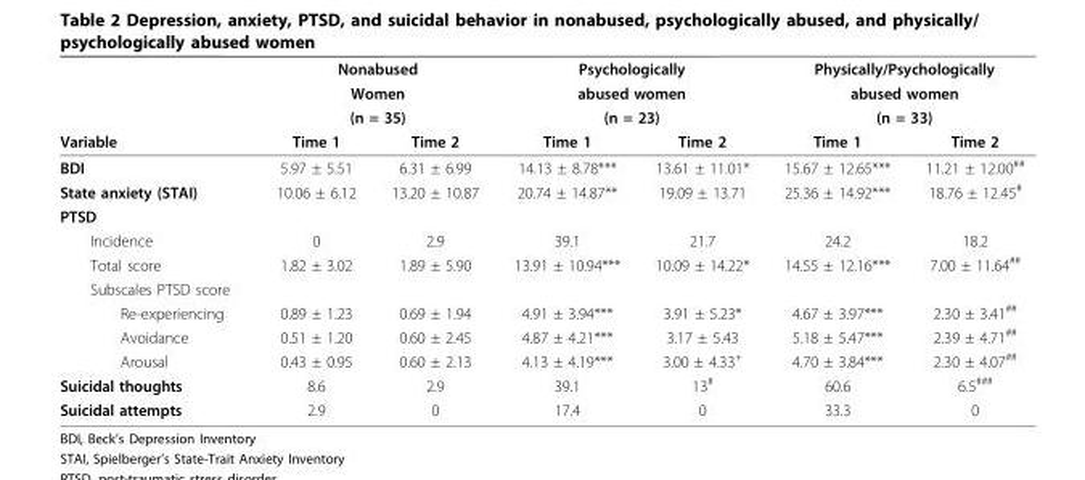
<table><thead><tr><td rowspan="4">Variable</td><td rowspan="3" colspan="2">Nonabused Women (n = 35)</td><td rowspan="3" colspan="2">Psychologically abused women (n = 23)</td><td rowspan="3" colspan="2">Physically/Psychologically abused women (n = 33)</td></tr><tr></tr><tr></tr><tr><td>Time 1</td><td>Time 2</td><td>Time 1</td><td>Time 2</td><td>Time 1</td><td>Time 2</td></tr></thead><tbody><tr><td>BDI</td><td>5.97 ± 5.51</td><td>6.31 ± 6.99</td><td>14.13 ± 8.78***</td><td>13.61 ± 11.01*</td><td>15.67 ± 12.65***</td><td>11.21 ± 12.00<sup>##</sup></td></tr><tr><td>State anxiety (STAI)</td><td>10.06 ± 6.12</td><td>13.20 ± 10.87</td><td>20.74 ± 14.87**</td><td>19.09 ± 13.71</td><td>25.36 ± 14.92***</td><td>18.76 ± 12.45<sup>#</sup></td></tr><tr><td colspan="7">PTSD</td></tr><tr><td>Incidence</td><td>0</td><td>2.9</td><td>39.1</td><td>21.7</td><td>24.2</td><td>18.2</td></tr><tr><td>Total score</td><td>1.82 ± 3.02</td><td>1.89 ± 5.90</td><td>13.91 ± 10.94***</td><td>10.09 ± 14.22*</td><td>14.55 ± 12.16***</td><td>7.00 ± 11.64<sup>##</sup></td></tr><tr><td colspan="7">Subscales PTSD score</td></tr><tr><td>Re-experiencing</td><td>0.89 ± 1.23</td><td>0.69 ± 1.94</td><td>4.91 ± 3.94***</td><td>3.91 ± 5.23*</td><td>4.67 ± 3.97***</td><td>2.30 ± 3.41<sup>##</sup></td></tr><tr><td>Avoidance</td><td>0.51 ± 1.20</td><td>0.60 ± 2.45</td><td>4.87 ± 4.21***</td><td>3.17 ± 5.43</td><td>5.18 ± 5.47***</td><td>2.39 ± 4.71<sup>##</sup></td></tr><tr><td>Arousal</td><td>0.43 ± 0.95</td><td>0.60 ± 2.13</td><td>4.13 ± 4.19***</td><td>3.00 ± 4.33<sup>+</sup></td><td>4.70 ± 3.84***</td><td>2.30 ± 4.07<sup>##</sup></td></tr><tr><td>Suicidal thoughts</td><td>8.6</td><td>2.9</td><td>39.1</td><td>13<sup>#</sup></td><td>60.6</td><td>6.5<sup>###</sup></td></tr><tr><td>Suicidal attempts</td><td>2.9</td><td>0</td><td>17.4</td><td>0</td><td>33.3</td><td>0</td></tr></tbody></table>